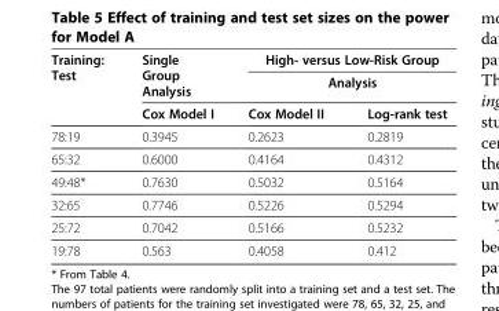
<table><thead><tr><td rowspan="2">Training: Test</td><td rowspan="2">Single Group Analysis Cox Model I</td><td colspan="2">High- versus Low-Risk Group Analysis</td></tr><tr><td>Cox Model II</td><td>Log-rank test</td></tr></thead><tbody><tr><td>78:19</td><td>0.3945</td><td>0.2623</td><td>0.2819</td></tr><tr><td>65:32</td><td>0.6000</td><td>0.4164</td><td>0.4312</td></tr><tr><td>49:48*</td><td>0.7630</td><td>0.5032</td><td>0.5164</td></tr><tr><td>32:65</td><td>0.7746</td><td>0.5226</td><td>0.5294</td></tr><tr><td>25:72</td><td>0.7042</td><td>0.5166</td><td>0.5232</td></tr><tr><td>19:78</td><td>0.563</td><td>0.4058</td><td>0.412</td></tr></tbody></table>